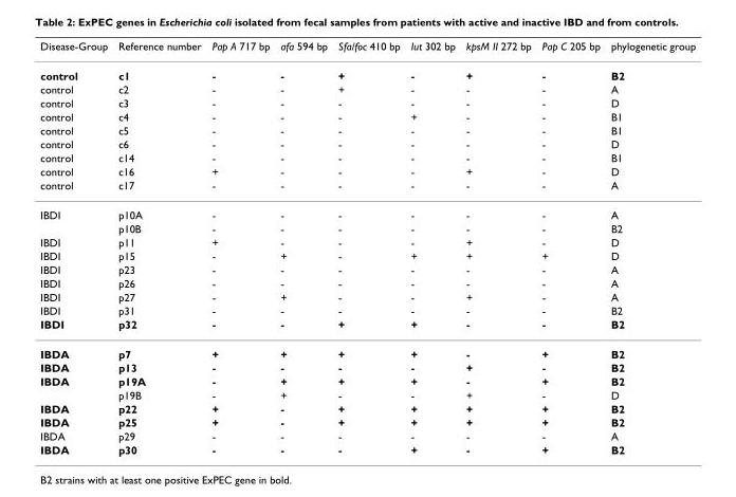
<table><thead><tr><td>Disease-Group</td><td>Reference number</td><td>Pap A 717 bp</td><td>afa 594 bp</td><td>Sfa/foc 410 bp</td><td>Iut 302 bp</td><td>kpsM II 272 bp</td><td>Pap C 205 bp</td><td>phylogenetic group</td></tr></thead><tbody><tr><td>control</td><td>c1</td><td>-</td><td>-</td><td>+</td><td>-</td><td>+</td><td>-</td><td>B2</td></tr><tr><td>control</td><td>c2</td><td>-</td><td>-</td><td>+</td><td>-</td><td>-</td><td>-</td><td>A</td></tr><tr><td>control</td><td>c3</td><td>-</td><td>-</td><td>-</td><td>-</td><td>-</td><td>-</td><td>D</td></tr><tr><td>control</td><td>c4</td><td>-</td><td>-</td><td>-</td><td>+</td><td>-</td><td>-</td><td>B1</td></tr><tr><td>control</td><td>c5</td><td>-</td><td>-</td><td>-</td><td>-</td><td>-</td><td>-</td><td>B1</td></tr><tr><td>control</td><td>c6</td><td>-</td><td>-</td><td>-</td><td>-</td><td>-</td><td>-</td><td>D</td></tr><tr><td>control</td><td>c14</td><td>-</td><td>-</td><td>-</td><td>-</td><td>-</td><td>-</td><td>B1</td></tr><tr><td>control</td><td>c16</td><td>+</td><td>-</td><td>-</td><td>-</td><td>+</td><td>-</td><td>D</td></tr><tr><td>control</td><td>c17</td><td>-</td><td>-</td><td>-</td><td>-</td><td>-</td><td>-</td><td>A</td></tr><tr><td rowspan="2">IBDI</td><td>p10A</td><td>-</td><td>-</td><td>-</td><td>-</td><td>-</td><td>-</td><td>A</td></tr><tr><td>p10B</td><td>-</td><td>-</td><td>-</td><td>-</td><td>-</td><td>-</td><td>B2</td></tr><tr><td>IBDI</td><td>p11</td><td>+</td><td>-</td><td>-</td><td>-</td><td>+</td><td>-</td><td>D</td></tr><tr><td>IBDI</td><td>p15</td><td>-</td><td>+</td><td>-</td><td>+</td><td>+</td><td>+</td><td>D</td></tr><tr><td>IBDI</td><td>p23</td><td>-</td><td>-</td><td>-</td><td>-</td><td>-</td><td>-</td><td>A</td></tr><tr><td>IBDI</td><td>p26</td><td>-</td><td>-</td><td>-</td><td>-</td><td>-</td><td>-</td><td>A</td></tr><tr><td>IBDI</td><td>p27</td><td>-</td><td>+</td><td>-</td><td>-</td><td>+</td><td>-</td><td>A</td></tr><tr><td>IBDI</td><td>p31</td><td>-</td><td>-</td><td>-</td><td>-</td><td>-</td><td>-</td><td>B2</td></tr><tr><td>IBDI</td><td>p32</td><td>-</td><td>-</td><td>+</td><td>+</td><td>-</td><td>-</td><td>B2</td></tr><tr><td>IBDA</td><td>p7</td><td>+</td><td>+</td><td>+</td><td>+</td><td>-</td><td>+</td><td>B2</td></tr><tr><td>IBDA</td><td>p13</td><td>-</td><td>-</td><td>-</td><td>-</td><td>+</td><td>-</td><td>B2</td></tr><tr><td rowspan="2">IBDA</td><td>p19A</td><td>-</td><td>+</td><td>+</td><td>+</td><td>-</td><td>+</td><td>B2</td></tr><tr><td>p19B</td><td>-</td><td>+</td><td>-</td><td>-</td><td>+</td><td>-</td><td>D</td></tr><tr><td>IBDA</td><td>p22</td><td>+</td><td>-</td><td>+</td><td>+</td><td>+</td><td>+</td><td>B2</td></tr><tr><td>IBDA</td><td>p25</td><td>+</td><td>-</td><td>+</td><td>+</td><td>+</td><td>+</td><td>B2</td></tr><tr><td>IBDA</td><td>p29</td><td>-</td><td>-</td><td>-</td><td>-</td><td>-</td><td>-</td><td>A</td></tr><tr><td>IBDA</td><td>p30</td><td>-</td><td>-</td><td>-</td><td>+</td><td>-</td><td>+</td><td>B2</td></tr></tbody></table>